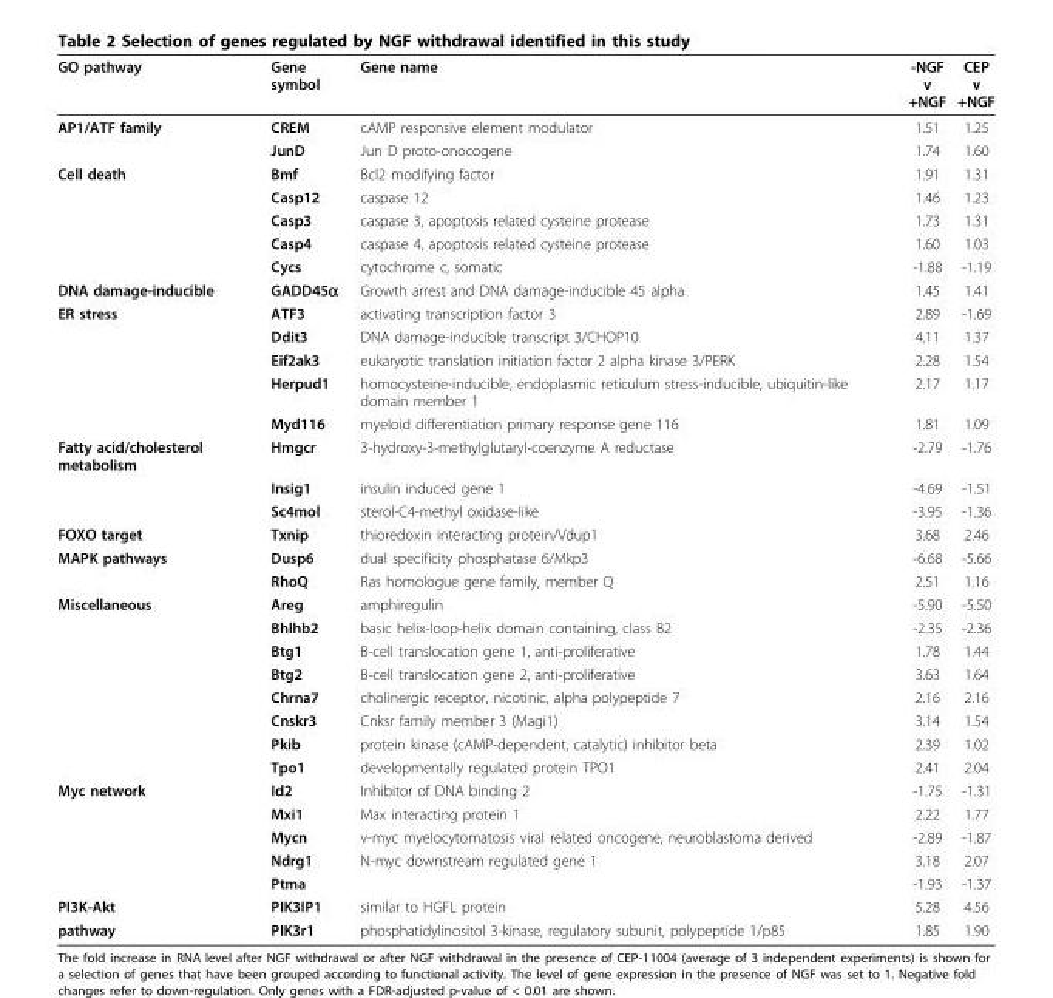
<table><thead><tr><td>GO pathway</td><td>Gene symbol</td><td>Gene name</td><td>-NGF v +NGF</td><td>CEP v +NGF</td></tr></thead><tbody><tr><td rowspan="2">AP1/ATF family</td><td>CREM</td><td>cAMP responsive element modulator</td><td>1.51</td><td>1.25</td></tr><tr><td>JunD</td><td>Jun D proto-onocogene</td><td>1.74</td><td>1.60</td></tr><tr><td rowspan="5">Cell death</td><td>Bmf</td><td>Bcl2 modifying factor</td><td>1.91</td><td>1.31</td></tr><tr><td>Casp12</td><td>caspase 12</td><td>1.46</td><td>1.23</td></tr><tr><td>Casp3</td><td>caspase 3, apoptosis related cysteine protease</td><td>1.73</td><td>1.31</td></tr><tr><td>Casp4</td><td>caspase 4, apoptosis related cysteine protease</td><td>1.60</td><td>1.03</td></tr><tr><td>Cycs</td><td>cytochrome c, somatic</td><td>-1.88</td><td>-1.19</td></tr><tr><td>DNA damage-inducible</td><td>GADD45α</td><td>Growth arrest and DNA damage-inducible 45 alpha</td><td>1.45</td><td>1.41</td></tr><tr><td rowspan="5">ER stress</td><td>ATF3</td><td>activating transcription factor 3</td><td>2.89</td><td>-1.69</td></tr><tr><td>Ddit3</td><td>DNA damage-inducible transcript 3/CHOP10</td><td>4.11</td><td>1.37</td></tr><tr><td>Eif2ak3</td><td>eukaryotic translation initiation factor 2 alpha kinase 3/PERK</td><td>2.28</td><td>1.54</td></tr><tr><td>Herpud1</td><td>homocysteine-inducible, endoplasmic reticulum stress-inducible, ubiquitin-like domain member 1</td><td>2.17</td><td>1.17</td></tr><tr><td>Myd116</td><td>myeloid differentiation primary response gene 116</td><td>1.81</td><td>1.09</td></tr><tr><td rowspan="3">Fatty acid/cholesterol metabolism</td><td>Hmgcr</td><td>3-hydroxy-3-methylglutaryl-coenzyme A reductase</td><td>-2.79</td><td>-1.76</td></tr><tr><td>Insig1</td><td>insulin induced gene 1</td><td>-4.69</td><td>-1.51</td></tr><tr><td>Sc4mol</td><td>sterol-C4-methyl oxidase-like</td><td>-3.95</td><td>-1.36</td></tr><tr><td>FOXO target</td><td>Txnip</td><td>thioredoxin interacting protein/Vdup1</td><td>3.68</td><td>2.46</td></tr><tr><td rowspan="2">MAPK pathways</td><td>Dusp6</td><td>dual specificity phosphatase 6/Mkp3</td><td>-6.68</td><td>-5.66</td></tr><tr><td>RhoQ</td><td>Ras homologue gene family, member Q</td><td>2.51</td><td>1.16</td></tr><tr><td rowspan="8">Miscellaneous</td><td>Areg</td><td>amphiregulin</td><td>-5.90</td><td>-5.50</td></tr><tr><td>Bhlhb2</td><td>basic helix-loop-helix domain containing, class B2</td><td>-2.35</td><td>-2.36</td></tr><tr><td>Btg1</td><td>B-cell translocation gene 1, anti-proliferative</td><td>1.78</td><td>1.44</td></tr><tr><td>Btg2</td><td>B-cell translocation gene 2, anti-proliferative</td><td>3.63</td><td>1.64</td></tr><tr><td>Chrna7</td><td>cholinergic receptor, nicotinic, alpha polypeptide 7</td><td>2.16</td><td>2.16</td></tr><tr><td>Cnskr3</td><td>Cnksr family member 3 (Magi1)</td><td>3.14</td><td>1.54</td></tr><tr><td>Pkib</td><td>protein kinase (cAMP-dependent, catalytic) inhibitor beta</td><td>2.39</td><td>1.02</td></tr><tr><td>Tpo1</td><td>developmentally regulated protein TPO1</td><td>2.41</td><td>2.04</td></tr><tr><td rowspan="5">Myc network</td><td>Id2</td><td>Inhibitor of DNA binding 2</td><td>-1.75</td><td>-1.31</td></tr><tr><td>Mxi1</td><td>Max interacting protein 1</td><td>2.22</td><td>1.77</td></tr><tr><td>Mycn</td><td>v-myc myelocytomatosis viral related oncogene, neuroblastoma derived</td><td>-2.89</td><td>-1.87</td></tr><tr><td>Ndrg1</td><td>N-myc downstream regulated gene 1</td><td>3.18</td><td>2.07</td></tr><tr><td>Ptma</td><td></td><td>-1.93</td><td>-1.37</td></tr><tr><td>PI3K-Akt</td><td>PIK3IP1</td><td>similar to HGFL protein</td><td>5.28</td><td>4.56</td></tr><tr><td>pathway</td><td>PIK3r1</td><td>phosphatidylinositol 3-kinase, regulatory subunit, polypeptide 1/p85</td><td>1.85</td><td>1.90</td></tr></tbody></table>